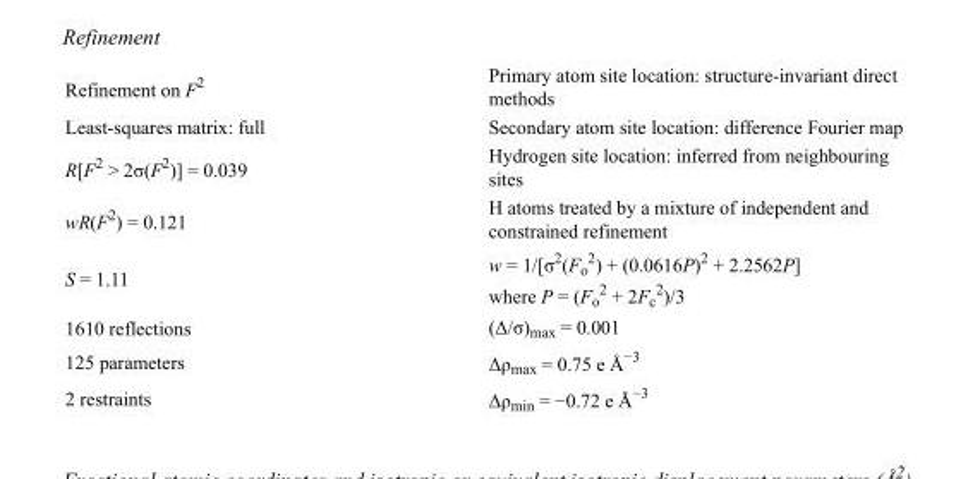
<table><tbody><tr><td>Refinement on F<sup>2</sup></td><td>Primary atom site location: structure-invariant direct methods</td></tr><tr><td>Least-squares matrix: full</td><td>Secondary atom site location: difference Fourier map</td></tr><tr><td>R[F<sup>2</sup> &gt; 2σ(F<sup>2</sup>)] = 0.039</td><td>Hydrogen site location: inferred from neighbouring sites</td></tr><tr><td>wR(F<sup>2</sup>) = 0.121</td><td>H atoms treated by a mixture of independent and constrained refinement</td></tr><tr><td>S = 1.11</td><td>w = 1/[σ<sup>2</sup>(F<sub>o</sub> <sup>2</sup>) + (0.0616P)<sup>2</sup> + 2.2562P] where P = (F<sub>o</sub> <sup>2</sup> + 2F<sub>c</sub> <sup>2</sup>)/3</td></tr><tr><td>1610 reflections</td><td>(Δ/σ)<sub>max</sub> = 0.001</td></tr><tr><td>125 parameters</td><td>Δρ<sub>max</sub> = 0.75 e Å<sup>−3</sup></td></tr><tr><td>2 restraints</td><td>Δρ<sub>min</sub> = −0.72 e Å<sup>−3</sup></td></tr></tbody></table>